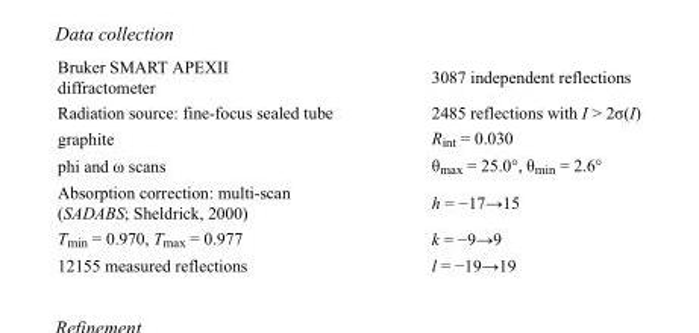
<table><tbody><tr><td>Bruker SMART APEXII diffractometer</td><td>3087 independent reflections</td></tr><tr><td>Radiation source: fine-focus sealed tube</td><td>2485 reflections with I &gt; 2σ(I)</td></tr><tr><td>graphite</td><td>R<sub>int</sub> = 0.030</td></tr><tr><td>phi and ω scans</td><td>θ<sub>max</sub> = 25.0°, θ<sub>min</sub> = 2.6°</td></tr><tr><td>Absorption correction: multi-scan (SADABS; Sheldrick, 2000)</td><td>h = −17→15</td></tr><tr><td>T<sub>min</sub> = 0.970, T<sub>max</sub> = 0.977</td><td>k = −9→9</td></tr><tr><td>12155 measured reflections</td><td>l = −19→19</td></tr></tbody></table>